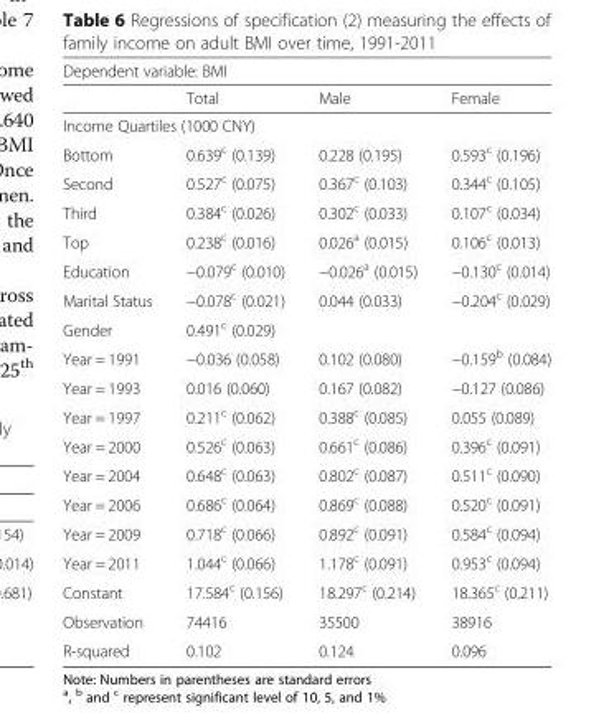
<table><thead><tr><td colspan="4">Dependent variable: BMI</td></tr><tr><td></td><td>Total</td><td>Male</td><td>Female</td></tr></thead><tbody><tr><td colspan="4">Income Quartiles (1000 CNY)</td></tr><tr><td>Bottom</td><td>0.639<sup>c</sup> (0.139)</td><td>0.228 (0.195)</td><td>0.593<sup>c</sup> (0.196)</td></tr><tr><td>Second</td><td>0.527<sup>c</sup> (0.075)</td><td>0.367<sup>c</sup> (0.103)</td><td>0.344<sup>c</sup> (0.105)</td></tr><tr><td>Third</td><td>0.384<sup>c</sup> (0.026)</td><td>0.302<sup>c</sup> (0.033)</td><td>0.107<sup>c</sup> (0.034)</td></tr><tr><td>Top</td><td>0.238<sup>c</sup> (0.016)</td><td>0.026<sup>a</sup> (0.015)</td><td>0.106<sup>c</sup> (0.013)</td></tr><tr><td>Education</td><td>−0.079<sup>c</sup> (0.010)</td><td>−0.026<sup>a</sup> (0.015)</td><td>−0.130<sup>c</sup> (0.014)</td></tr><tr><td>Marital Status</td><td>−0.078<sup>c</sup> (0.021)</td><td>0.044 (0.033)</td><td>−0.204<sup>c</sup> (0.029)</td></tr><tr><td>Gender</td><td>0.491<sup>c</sup> (0.029)</td><td></td><td></td></tr><tr><td>Year = 1991</td><td>−0.036 (0.058)</td><td>0.102 (0.080)</td><td>−0.159<sup>b</sup> (0.084)</td></tr><tr><td>Year = 1993</td><td>0.016 (0.060)</td><td>0.167 (0.082)</td><td>−0.127 (0.086)</td></tr><tr><td>Year = 1997</td><td>0.211<sup>c</sup> (0.062)</td><td>0.388<sup>c</sup> (0.085)</td><td>0.055 (0.089)</td></tr><tr><td>Year = 2000</td><td>0.526<sup>c</sup> (0.063)</td><td>0.661<sup>c</sup> (0.086)</td><td>0.396<sup>c</sup> (0.091)</td></tr><tr><td>Year = 2004</td><td>0.648<sup>c</sup> (0.063)</td><td>0.802<sup>c</sup> (0.087)</td><td>0.511<sup>c</sup> (0.090)</td></tr><tr><td>Year = 2006</td><td>0.686<sup>c</sup> (0.064)</td><td>0.869<sup>c</sup> (0.088)</td><td>0.520<sup>c</sup> (0.091)</td></tr><tr><td>Year = 2009</td><td>0.718<sup>c</sup> (0.066)</td><td>0.892<sup>c</sup> (0.091)</td><td>0.584<sup>c</sup> (0.094)</td></tr><tr><td>Year = 2011</td><td>1.044<sup>c</sup> (0.066)</td><td>1.178<sup>c</sup> (0.091)</td><td>0.953<sup>c</sup> (0.094)</td></tr><tr><td>Constant</td><td>17.584<sup>c</sup> (0.156)</td><td>18.297<sup>c</sup> (0.214)</td><td>18.365<sup>c</sup> (0.211)</td></tr><tr><td>Observation</td><td>74416</td><td>35500</td><td>38916</td></tr><tr><td>R-squared</td><td>0.102</td><td>0.124</td><td>0.096</td></tr></tbody></table>